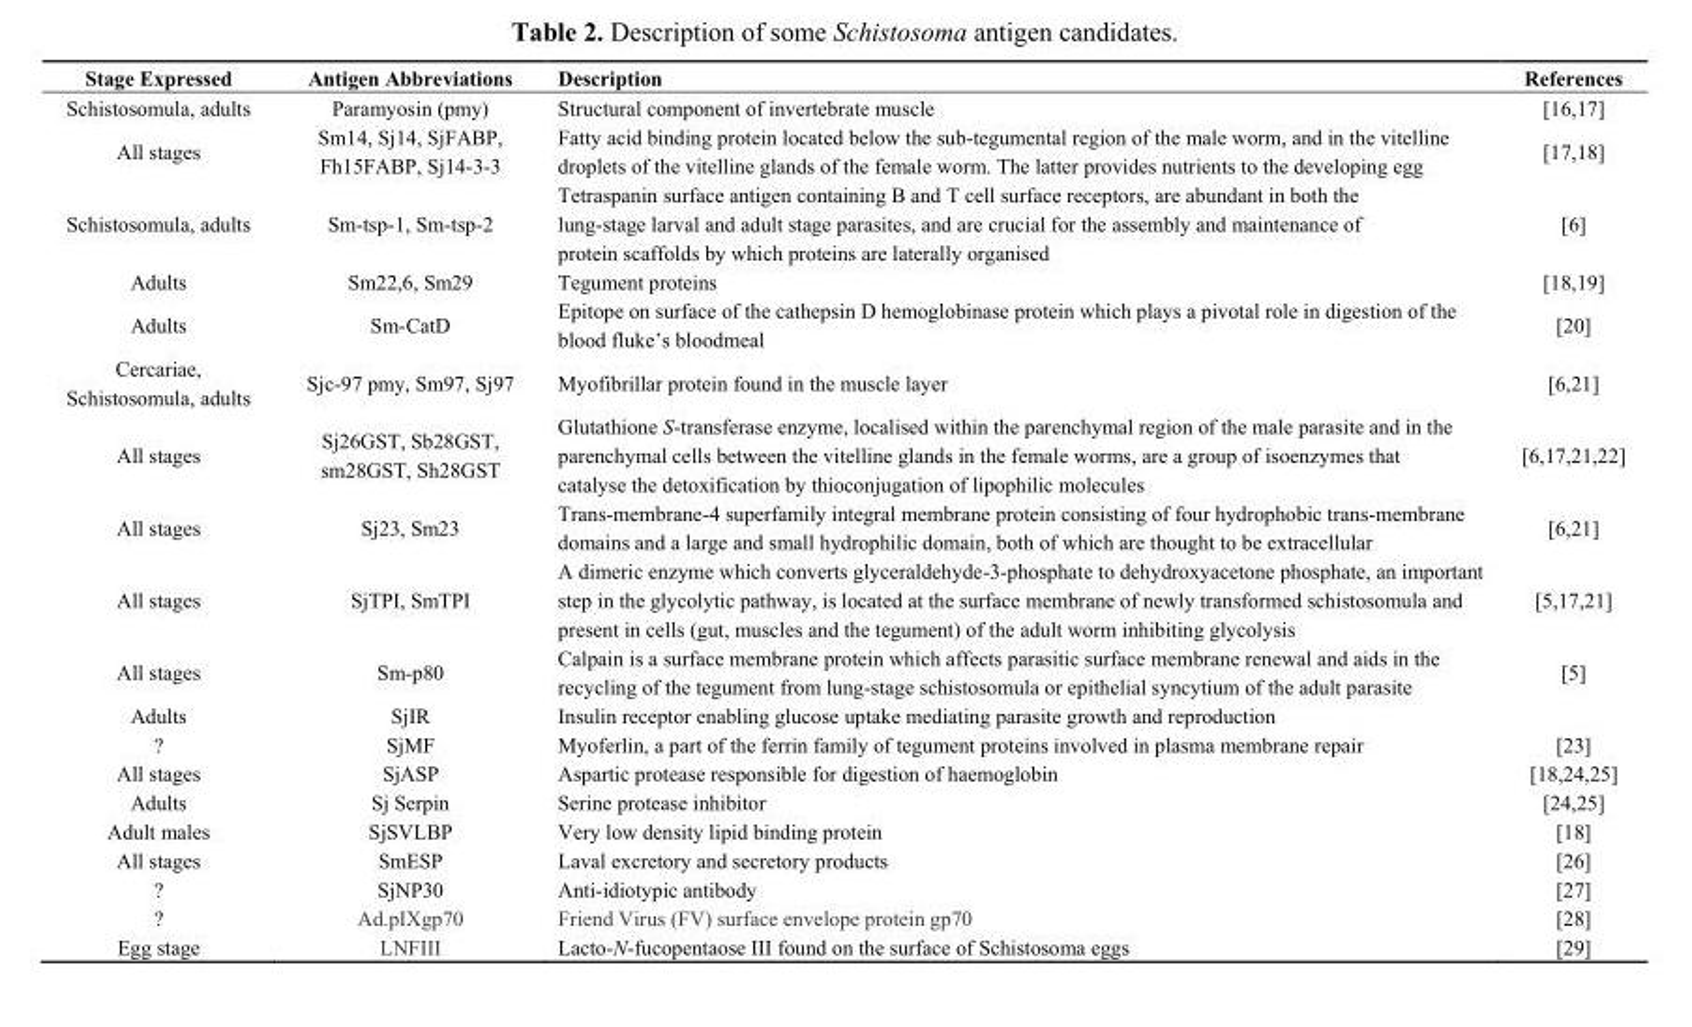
<table><thead><tr><td>Stage Expressed</td><td>Antigen Abbreviations</td><td>Description</td><td>References</td></tr></thead><tbody><tr><td>Schistosomula, adults</td><td>Paramyosin (pmy)</td><td>Structural component of invertebrate muscle</td><td>[16,17]</td></tr><tr><td>All stages</td><td>Sm14, Sj14, SjFABP, Fh15FABP, Sj14-3-3</td><td>Fatty acid binding protein located below the sub-tegumental region of the male worm, and in the vitelline droplets of the vitelline glands of the female worm. The latter provides nutrients to the developing egg</td><td>[17,18]</td></tr><tr><td>Schistosomula, adults</td><td>Sm-tsp-1, Sm-tsp-2</td><td>Tetraspanin surface antigen containing B and T cell surface receptors, are abundant in both the lung-stage larval and adult stage parasites, and are crucial for the assembly and maintenance of protein scaffolds by which proteins are laterally organised</td><td>[6]</td></tr><tr><td>Adults</td><td>Sm22,6, Sm29</td><td>Tegument proteins</td><td>[18,19]</td></tr><tr><td>Adults</td><td>Sm-CatD</td><td>Epitope on surface of the cathepsin D hemoglobinase protein which plays a pivotal role in digestion of the blood fluke’s bloodmeal</td><td>[20]</td></tr><tr><td>Cercariae, Schistosomula, adults</td><td>Sjc-97 pmy, Sm97, Sj97</td><td>Myofibrillar protein found in the muscle layer</td><td>[6,21]</td></tr><tr><td>All stages</td><td>Sj26GST, Sb28GST, sm28GST, Sh28GST</td><td>Glutathione S-transferase enzyme, localised within the parenchymal region of the male parasite and in the parenchymal cells between the vitelline glands in the female worms, are a group of isoenzymes that catalyse the detoxification by thioconjugation of lipophilic molecules</td><td>[6,17,21,22]</td></tr><tr><td>All stages</td><td>Sj23, Sm23</td><td>Trans-membrane-4 superfamily integral membrane protein consisting of four hydrophobic trans-membrane domains and a large and small hydrophilic domain, both of which are thought to be extracellular</td><td>[6,21]</td></tr><tr><td>All stages</td><td>SjTPI, SmTPI</td><td>A dimeric enzyme which converts glyceraldehyde-3-phosphate to dehydroxyacetone phosphate, an important step in the glycolytic pathway, is located at the surface membrane of newly transformed schistosomula and present in cells (gut, muscles and the tegument) of the adult worm inhibiting glycolysis</td><td>[5,17,21]</td></tr><tr><td>All stages</td><td>Sm-p80</td><td>Calpain is a surface membrane protein which affects parasitic surface membrane renewal and aids in the recycling of the tegument from lung-stage schistosomula or epithelial syncytium of the adult parasite</td><td>[5]</td></tr><tr><td>Adults</td><td>SjIR</td><td>Insulin receptor enabling glucose uptake mediating parasite growth and reproduction</td><td></td></tr><tr><td>?</td><td>SjMF</td><td>Myoferlin, a part of the ferrin family of tegument proteins involved in plasma membrane repair</td><td>[23]</td></tr><tr><td>All stages</td><td>SjASP</td><td>Aspartic protease responsible for digestion of haemoglobin</td><td>[18,24,25]</td></tr><tr><td>Adults</td><td>Sj Serpin</td><td>Serine protease inhibitor</td><td>[24,25]</td></tr><tr><td>Adult males</td><td>SjSVLBP</td><td>Very low density lipid binding protein</td><td>[18]</td></tr><tr><td>All stages</td><td>SmESP</td><td>Laval excretory and secretory products</td><td>[26]</td></tr><tr><td>?</td><td>SjNP30</td><td>Anti-idiotypic antibody</td><td>[27]</td></tr><tr><td>?</td><td>Ad.pIXgp70</td><td>Friend Virus (FV) surface envelope protein gp70</td><td>[28]</td></tr><tr><td>Egg stage</td><td>LNFIII</td><td>Lacto-N-fucopentaose III found on the surface of Schistosoma eggs</td><td>[29]</td></tr></tbody></table>